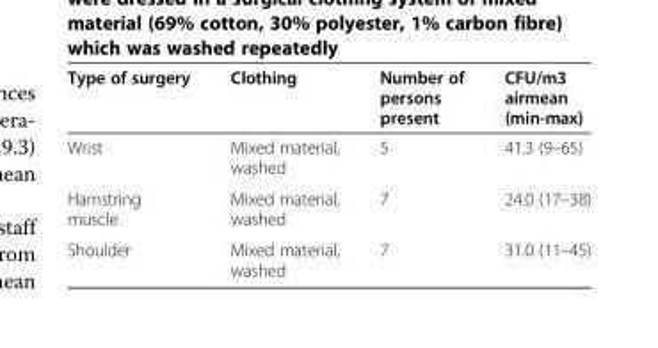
<table><thead><tr><td>Type of surgery</td><td>Clothing</td><td>Number of persons present</td><td>CFU/m3 airmean (min-max)</td></tr></thead><tbody><tr><td>Wrist</td><td>Mixed material, washed</td><td>5</td><td>41.3 (9–65)</td></tr><tr><td>Hamstring muscle</td><td>Mixed material, washed</td><td>7</td><td>24.0 (17–38)</td></tr><tr><td>Shoulder</td><td>Mixed material, washed</td><td>7</td><td>31.0 (11–45)</td></tr></tbody></table>